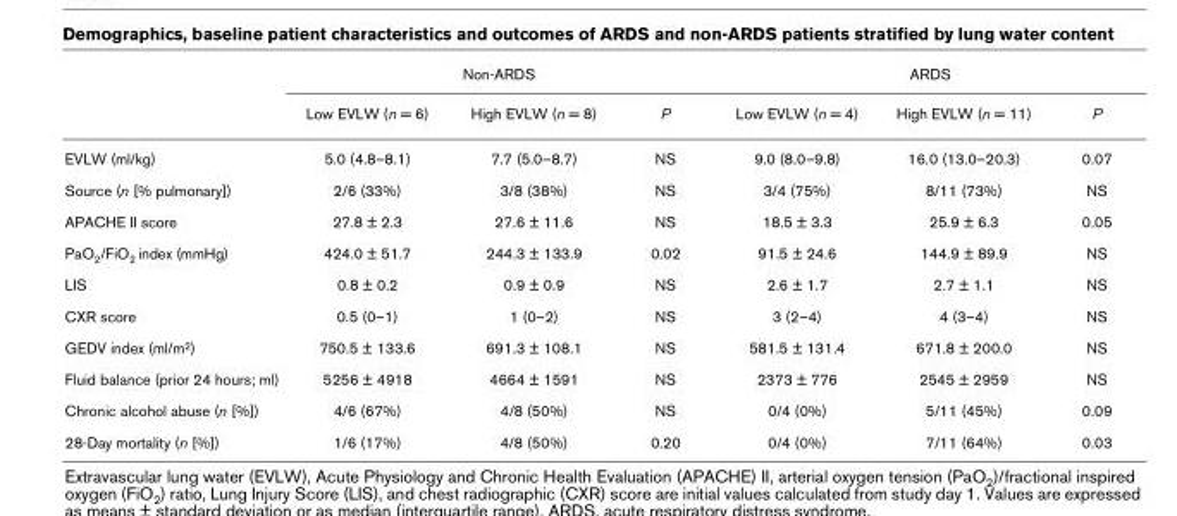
<table><thead><tr><td rowspan="2"></td><td colspan="3">Non-ARDS</td><td colspan="3">ARDS</td></tr><tr><td>Low EVLW (n = 6)</td><td>High EVLW (n = 8)</td><td>P</td><td>Low EVLW (n = 4)</td><td>High EVLW (n = 11)</td><td>P</td></tr></thead><tbody><tr><td>EVLW (ml/kg)</td><td>5.0 (4.8–8.1)</td><td>7.7 (5.0–8.7)</td><td>NS</td><td>9.0 (8.0–9.8)</td><td>16.0 (13.0–20.3)</td><td>0.07</td></tr><tr><td>Source (n [% pulmonary])</td><td>2/6 (33%)</td><td>3/8 (38%)</td><td>NS</td><td>3/4 (75%)</td><td>8/11 (73%)</td><td>NS</td></tr><tr><td>APACHE II score</td><td>27.8 ± 2.3</td><td>27.6 ± 11.6</td><td>NS</td><td>18.5 ± 3.3</td><td>25.9 ± 6.3</td><td>0.05</td></tr><tr><td>PaO2/FiO2 index (mmHg)</td><td>424.0 ± 51.7</td><td>244.3 ± 133.9</td><td>0.02</td><td>91.5 ± 24.6</td><td>144.9 ± 89.9</td><td>NS</td></tr><tr><td>LIS</td><td>0.8 ± 0.2</td><td>0.9 ± 0.9</td><td>NS</td><td>2.6 ± 1.7</td><td>2.7 ± 1.1</td><td>NS</td></tr><tr><td>CXR score</td><td>0.5 (0–1)</td><td>1 (0–2)</td><td>NS</td><td>3 (2–4)</td><td>4 (3–4)</td><td>NS</td></tr><tr><td>GEDV index (ml/m2)</td><td>750.5 ± 133.6</td><td>691.3 ± 108.1</td><td>NS</td><td>581.5 ± 131.4</td><td>671.8 ± 200.0</td><td>NS</td></tr><tr><td>Fluid balance (prior 24 hours; ml)</td><td>5256 ± 4918</td><td>4664 ± 1591</td><td>NS</td><td>2373 ± 776</td><td>2545 ± 2959</td><td>NS</td></tr><tr><td>Chronic alcohol abuse (n [%])</td><td>4/6 (67%)</td><td>4/8 (50%)</td><td>NS</td><td>0/4 (0%)</td><td>5/11 (45%)</td><td>0.09</td></tr><tr><td>28-Day mortality (n [%])</td><td>1/6 (17%)</td><td>4/8 (50%)</td><td>0.20</td><td>0/4 (0%)</td><td>7/11 (64%)</td><td>0.03</td></tr></tbody></table>